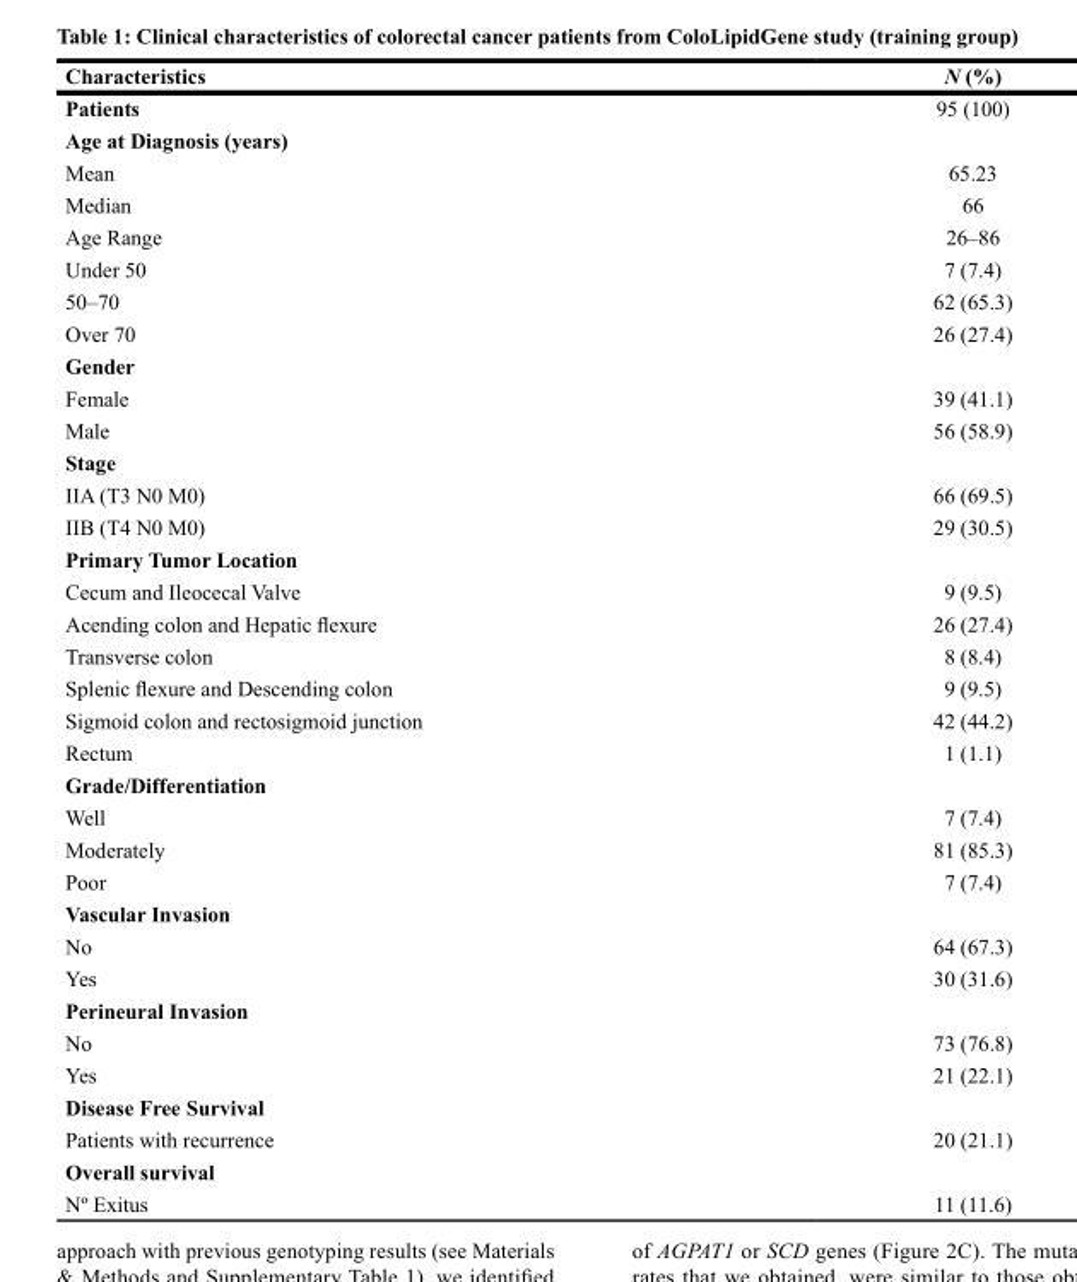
<table><thead><tr><td>Characteristics</td><td>N (%)</td></tr></thead><tbody><tr><td>Patients</td><td>95 (100)</td></tr><tr><td colspan="2">Age at Diagnosis (years)</td></tr><tr><td>Mean</td><td>65.23</td></tr><tr><td>Median</td><td>66</td></tr><tr><td>Age Range</td><td>26–86</td></tr><tr><td>Under 50</td><td>7 (7.4)</td></tr><tr><td>50–70</td><td>62 (65.3)</td></tr><tr><td>Over 70</td><td>26 (27.4)</td></tr><tr><td colspan="2">Gender</td></tr><tr><td>Female</td><td>39 (41.1)</td></tr><tr><td>Male</td><td>56 (58.9)</td></tr><tr><td colspan="2">Stage</td></tr><tr><td>IIA (T3 N0 M0)</td><td>66 (69.5)</td></tr><tr><td>IIB (T4 N0 M0)</td><td>29 (30.5)</td></tr><tr><td colspan="2">Primary Tumor Location</td></tr><tr><td>Cecum and Ileocecal Valve</td><td>9 (9.5)</td></tr><tr><td>Acending colon and Hepatic flexure</td><td>26 (27.4)</td></tr><tr><td>Transverse colon</td><td>8 (8.4)</td></tr><tr><td>Splenic flexure and Descending colon</td><td>9 (9.5)</td></tr><tr><td>Sigmoid colon and rectosigmoid junction</td><td>42 (44.2)</td></tr><tr><td>Rectum</td><td>1 (1.1)</td></tr><tr><td colspan="2">Grade/Differentiation</td></tr><tr><td>Well</td><td>7 (7.4)</td></tr><tr><td>Moderately</td><td>81 (85.3)</td></tr><tr><td>Poor</td><td>7 (7.4)</td></tr><tr><td colspan="2">Vascular Invasion</td></tr><tr><td>No</td><td>64 (67.3)</td></tr><tr><td>Yes</td><td>30 (31.6)</td></tr><tr><td colspan="2">Perineural Invasion</td></tr><tr><td>No</td><td>73 (76.8)</td></tr><tr><td>Yes</td><td>21 (22.1)</td></tr><tr><td colspan="2">Disease Free Survival</td></tr><tr><td>Patients with recurrence</td><td>20 (21.1)</td></tr><tr><td colspan="2">Overall survival</td></tr><tr><td>Nº Exitus</td><td>11 (11.6)</td></tr></tbody></table>